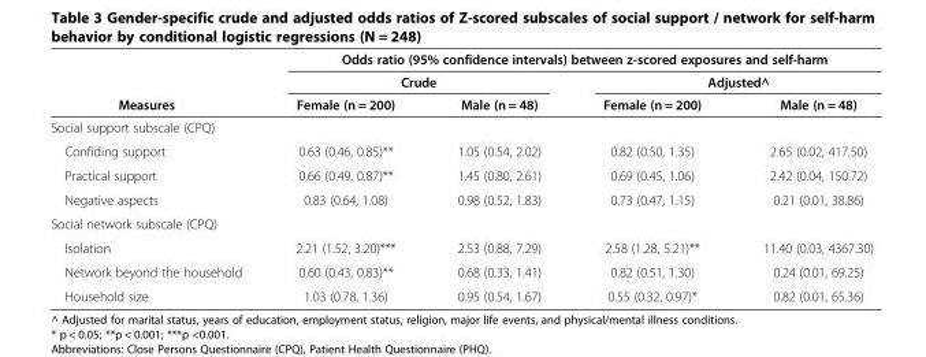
<table><thead><tr><td rowspan="3">Measures</td><td colspan="4">Odds ratio (95% confidence intervals) between z-scored exposures and self-harm</td></tr><tr><td colspan="2">Crude</td><td colspan="2">Adjusted^</td></tr><tr><td>Female (n = 200)</td><td>Male (n = 48)</td><td>Female (n = 200)</td><td>Male (n = 48)</td></tr></thead><tbody><tr><td colspan="5">Social support subscale (CPQ)</td></tr><tr><td>Confiding support</td><td>0.63 (0.46, 0.85)**</td><td>1.05 (0.54, 2.02)</td><td>0.82 (0.50, 1.35)</td><td>2.65 (0.02, 417.50)</td></tr><tr><td>Practical support</td><td>0.66 (0.49, 0.87)**</td><td>1.45 (0.80, 2.61)</td><td>0.69 (0.45, 1.06)</td><td>2.42 (0.04, 150.72)</td></tr><tr><td>Negative aspects</td><td>0.83 (0.64, 1.08)</td><td>0.98 (0.52, 1.83)</td><td>0.73 (0.47, 1.15)</td><td>0.21 (0.01, 38.86)</td></tr><tr><td colspan="5">Social network subscale (CPQ)</td></tr><tr><td>Isolation</td><td>2.21 (1.52, 3.20)***</td><td>2.53 (0.88, 7.29)</td><td>2.58 (1.28, 5.21)**</td><td>11.40 (0.03, 4367.30)</td></tr><tr><td>Network beyond the household</td><td>0.60 (0.43, 0.83)**</td><td>0.68 (0.33, 1.41)</td><td>0.82 (0.51, 1.30)</td><td>0.24 (0.01, 69.25)</td></tr><tr><td>Household size</td><td>1.03 (0.78, 1.36)</td><td>0.95 (0.54, 1.67)</td><td>0.55 (0.32, 0.97)*</td><td>0.82 (0.01, 65.36)</td></tr></tbody></table>